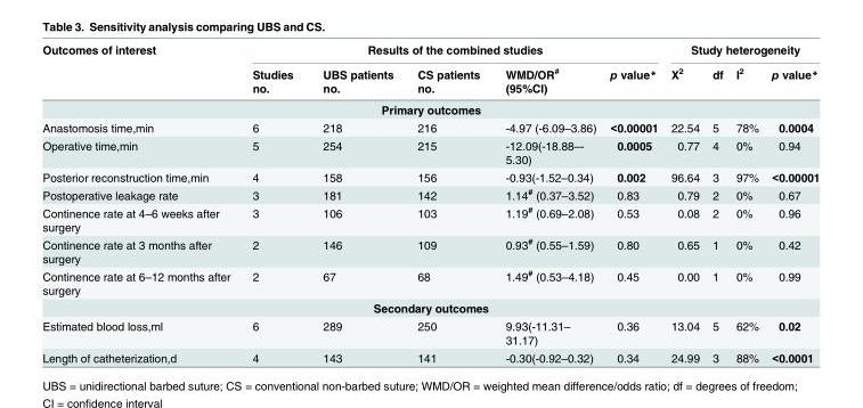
<table><thead><tr><td rowspan="2">Outcomes of interest</td><td colspan="5">Results of the combined studies</td><td colspan="4">Study heterogeneity</td></tr><tr><td>Studies no.</td><td>UBS patients no.</td><td>CS patients no.</td><td>WMD/OR<sup>#</sup> (95%CI)</td><td>p value*</td><td>X<sup>2</sup></td><td>df</td><td>I<sup>2</sup></td><td>p value*</td></tr></thead><tbody><tr><td colspan="10">Primary outcomes</td></tr><tr><td>Anastomosis time,min</td><td>6</td><td>218</td><td>216</td><td>-4.97 (-6.09–3.86)</td><td>&lt;0.00001</td><td>22.54</td><td>5</td><td>78%</td><td>0.0004</td></tr><tr><td>Operative time,min</td><td>5</td><td>254</td><td>215</td><td>-12.09(-18.88–- 5.30)</td><td>0.0005</td><td>0.77</td><td>4</td><td>0%</td><td>0.94</td></tr><tr><td>Posterior reconstruction time,min</td><td>4</td><td>158</td><td>156</td><td>-0.93(-1.52–0.34)</td><td>0.002</td><td>96.64</td><td>3</td><td>97%</td><td>&lt;0.00001</td></tr><tr><td>Postoperative leakage rate</td><td>3</td><td>181</td><td>142</td><td>1.14<sup>#</sup> (0.37–3.52)</td><td>0.83</td><td>0.79</td><td>2</td><td>0%</td><td>0.67</td></tr><tr><td>Continence rate at 4–6 weeks after surgery</td><td>3</td><td>106</td><td>103</td><td>1.19<sup>#</sup> (0.69–2.08)</td><td>0.53</td><td>0.08</td><td>2</td><td>0%</td><td>0.96</td></tr><tr><td>Continence rate at 3 months after surgery</td><td>2</td><td>146</td><td>109</td><td>0.93<sup>#</sup> (0.55–1.59)</td><td>0.80</td><td>0.65</td><td>1</td><td>0%</td><td>0.42</td></tr><tr><td>Continence rate at 6–12 months after surgery</td><td>2</td><td>67</td><td>68</td><td>1.49<sup>#</sup> (0.53–4.18)</td><td>0.45</td><td>0.00</td><td>1</td><td>0%</td><td>0.99</td></tr><tr><td colspan="10">Secondary outcomes</td></tr><tr><td>Estimated blood loss,ml</td><td>6</td><td>289</td><td>250</td><td>9.93(-11.31– 31.17)</td><td>0.36</td><td>13.04</td><td>5</td><td>62%</td><td>0.02</td></tr><tr><td>Length of catheterization,d</td><td>4</td><td>143</td><td>141</td><td>-0.30(-0.92–0.32)</td><td>0.34</td><td>24.99</td><td>3</td><td>88%</td><td>&lt;0.0001</td></tr></tbody></table>